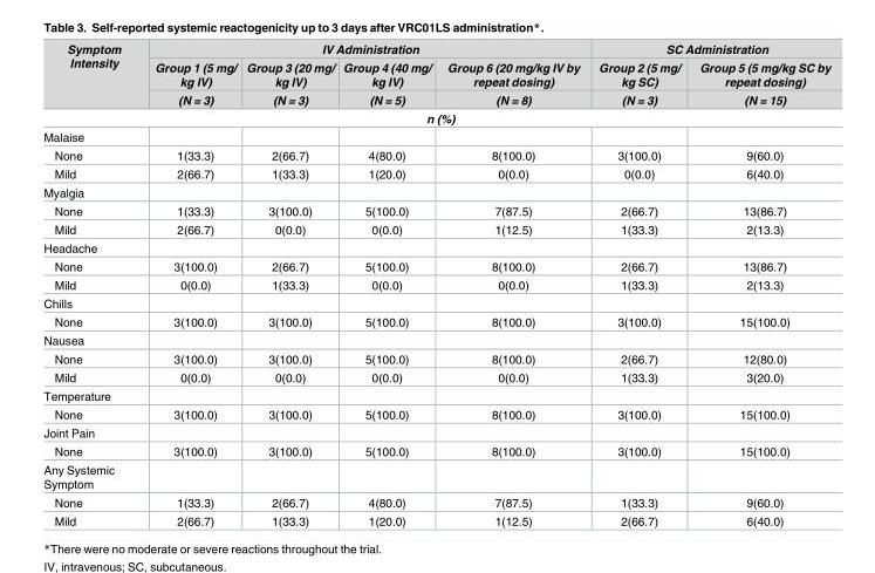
<table><thead><tr><td rowspan="3">Symptom Intensity</td><td colspan="4">IV Administration</td><td colspan="2">SC Administration</td></tr><tr><td rowspan="2">Group 1 (5 mg/ kg IV) (N = 3)</td><td rowspan="2">Group 3 (20 mg/ kg IV) (N = 3)</td><td rowspan="2">Group 4 (40 mg/ kg IV) (N = 5)</td><td rowspan="2">Group 6 (20 mg/kg IV by repeat dosing) (N = 8)</td><td rowspan="2">Group 2 (5 mg/ kg SC) (N = 3)</td><td rowspan="2">Group 5 (5 mg/kg SC by repeat dosing) (N = 15)</td></tr><tr></tr><tr><td colspan="7">n (%)</td></tr></thead><tbody><tr><td colspan="7">Malaise</td></tr><tr><td>None</td><td>1(33.3)</td><td>2(66.7)</td><td>4(80.0)</td><td>8(100.0)</td><td>3(100.0)</td><td>9(60.0)</td></tr><tr><td>Mild</td><td>2(66.7)</td><td>1(33.3)</td><td>1(20.0)</td><td>0(0.0)</td><td>0(0.0)</td><td>6(40.0)</td></tr><tr><td colspan="7">Myalgia</td></tr><tr><td>None</td><td>1(33.3)</td><td>3(100.0)</td><td>5(100.0)</td><td>7(87.5)</td><td>2(66.7)</td><td>13(86.7)</td></tr><tr><td>Mild</td><td>2(66.7)</td><td>0(0.0)</td><td>0(0.0)</td><td>1(12.5)</td><td>1(33.3)</td><td>2(13.3)</td></tr><tr><td colspan="7">Headache</td></tr><tr><td>None</td><td>3(100.0)</td><td>2(66.7)</td><td>5(100.0)</td><td>8(100.0)</td><td>2(66.7)</td><td>13(86.7)</td></tr><tr><td>Mild</td><td>0(0.0)</td><td>1(33.3)</td><td>0(0.0)</td><td>0(0.0)</td><td>1(33.3)</td><td>2(13.3)</td></tr><tr><td colspan="7">Chills</td></tr><tr><td>None</td><td>3(100.0)</td><td>3(100.0)</td><td>5(100.0)</td><td>8(100.0)</td><td>3(100.0)</td><td>15(100.0)</td></tr><tr><td colspan="7">Nausea</td></tr><tr><td>None</td><td>3(100.0)</td><td>3(100.0)</td><td>5(100.0)</td><td>8(100.0)</td><td>2(66.7)</td><td>12(80.0)</td></tr><tr><td>Mild</td><td>0(0.0)</td><td>0(0.0)</td><td>0(0.0)</td><td>0(0.0)</td><td>1(33.3)</td><td>3(20.0)</td></tr><tr><td colspan="7">Temperature</td></tr><tr><td>None</td><td>3(100.0)</td><td>3(100.0)</td><td>5(100.0)</td><td>8(100.0)</td><td>3(100.0)</td><td>15(100.0)</td></tr><tr><td colspan="7">Joint Pain</td></tr><tr><td>None</td><td>3(100.0)</td><td>3(100.0)</td><td>5(100.0)</td><td>8(100.0)</td><td>3(100.0)</td><td>15(100.0)</td></tr><tr><td colspan="7">Any Systemic Symptom</td></tr><tr><td>None</td><td>1(33.3)</td><td>2(66.7)</td><td>4(80.0)</td><td>7(87.5)</td><td>1(33.3)</td><td>9(60.0)</td></tr><tr><td>Mild</td><td>2(66.7)</td><td>1(33.3)</td><td>1(20.0)</td><td>1(12.5)</td><td>2(66.7)</td><td>6(40.0)</td></tr></tbody></table>